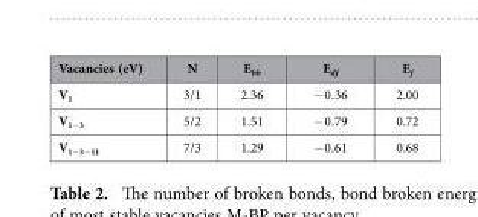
<table><thead><tr><td>Vacancies (eV)</td><td>N</td><td>E<sub>bb</sub></td><td>E<sub>df</sub></td><td>E<sub>f</sub></td></tr></thead><tbody><tr><td>V<sub>1</sub></td><td>3/1</td><td>2.36</td><td>− 0.36</td><td>2.00</td></tr><tr><td>V<sub>1−3</sub></td><td>5/2</td><td>1.51</td><td>− 0.79</td><td>0.72</td></tr><tr><td>V<sub>1−3−11</sub></td><td>7/3</td><td>1.29</td><td>− 0.61</td><td>0.68</td></tr></tbody></table>